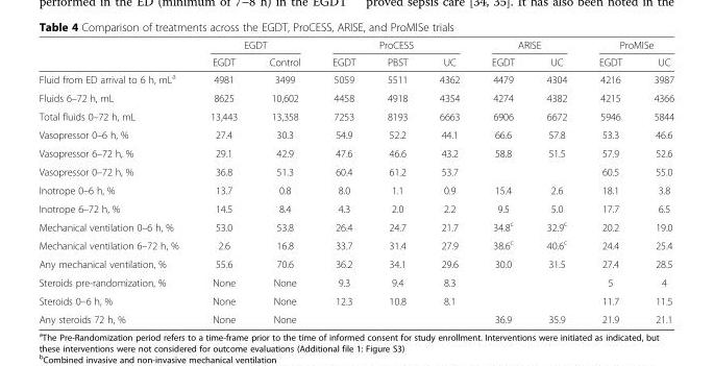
<table><thead><tr><td rowspan="2"></td><td colspan="2">EGDT</td><td colspan="3">ProCESS</td><td colspan="2">ARISE</td><td colspan="2">ProMISe</td></tr><tr><td>EGDT</td><td>Control</td><td>EGDT</td><td>PBST</td><td>UC</td><td>EGDT</td><td>UC</td><td>EGDT</td><td>UC</td></tr></thead><tbody><tr><td>Fluid from ED arrival to 6 h, mL<sup>a</sup></td><td>4981</td><td>3499</td><td>5059</td><td>5511</td><td>4362</td><td>4479</td><td>4304</td><td>4216</td><td>3987</td></tr><tr><td>Fluids 6–72 h, mL</td><td>8625</td><td>10,602</td><td>4458</td><td>4918</td><td>4354</td><td>4274</td><td>4382</td><td>4215</td><td>4366</td></tr><tr><td>Total fluids 0–72 h, mL</td><td>13,443</td><td>13,358</td><td>7253</td><td>8193</td><td>6663</td><td>6906</td><td>6672</td><td>5946</td><td>5844</td></tr><tr><td>Vasopressor 0–6 h, %</td><td>27.4</td><td>30.3</td><td>54.9</td><td>52.2</td><td>44.1</td><td>66.6</td><td>57.8</td><td>53.3</td><td>46.6</td></tr><tr><td>Vasopressor 6–72 h, %</td><td>29.1</td><td>42.9</td><td>47.6</td><td>46.6</td><td>43.2</td><td>58.8</td><td>51.5</td><td>57.9</td><td>52.6</td></tr><tr><td>Vasopressor 0–72 h, %</td><td>36.8</td><td>51.3</td><td>60.4</td><td>61.2</td><td>53.7</td><td></td><td></td><td>60.5</td><td>55.0</td></tr><tr><td>Inotrope 0–6 h, %</td><td>13.7</td><td>0.8</td><td>8.0</td><td>1.1</td><td>0.9</td><td>15.4</td><td>2.6</td><td>18.1</td><td>3.8</td></tr><tr><td>Inotrope 6–72 h, %</td><td>14.5</td><td>8.4</td><td>4.3</td><td>2.0</td><td>2.2</td><td>9.5</td><td>5.0</td><td>17.7</td><td>6.5</td></tr><tr><td>Mechanical ventilation 0–6 h, %</td><td>53.0</td><td>53.8</td><td>26.4</td><td>24.7</td><td>21.7</td><td>34.8<sup>c</sup></td><td>32.9<sup>c</sup></td><td>20.2</td><td>19.0</td></tr><tr><td>Mechanical ventilation 6–72 h, %</td><td>2.6</td><td>16.8</td><td>33.7</td><td>31.4</td><td>27.9</td><td>38.6<sup>c</sup></td><td>40.6<sup>c</sup></td><td>24.4</td><td>25.4</td></tr><tr><td>Any mechanical ventilation, %</td><td>55.6</td><td>70.6</td><td>36.2</td><td>34.1</td><td>29.6</td><td>30.0</td><td>31.5</td><td>27.4</td><td>28.5</td></tr><tr><td>Steroids pre-randomization, %</td><td>None</td><td>None</td><td>9.3</td><td>9.4</td><td>8.3</td><td></td><td></td><td>5</td><td>4</td></tr><tr><td>Steroids 0–6 h, %</td><td>None</td><td>None</td><td>12.3</td><td>10.8</td><td>8.1</td><td></td><td></td><td>11.7</td><td>11.5</td></tr><tr><td>Any steroids 72 h, %</td><td>None</td><td>None</td><td></td><td></td><td></td><td>36.9</td><td>35.9</td><td>21.9</td><td>21.1</td></tr></tbody></table>